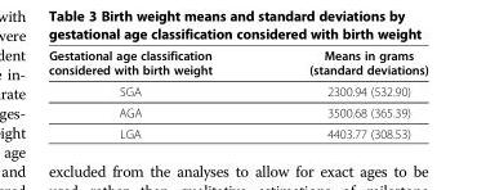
<table><thead><tr><td>Gestational age classification considered with birth weight</td><td>Means in grams (standard deviations)</td></tr></thead><tbody><tr><td>SGA</td><td>2300.94 (532.90)</td></tr><tr><td>AGA</td><td>3500.68 (365.39)</td></tr><tr><td>LGA</td><td>4403.77 (308.53)</td></tr></tbody></table>